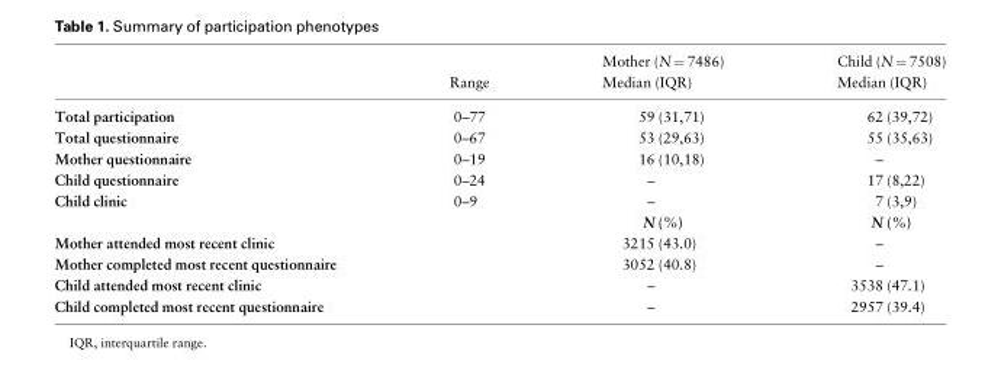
<table><thead><tr><td rowspan="2"></td><td rowspan="2">Range</td><td rowspan="2">Mother (N = 7486) Median (IQR)</td><td rowspan="2">Child (N = 7508) Median (IQR)</td></tr><tr></tr></thead><tbody><tr><td>Total participation</td><td>0–77</td><td>59 (31,71)</td><td>62 (39,72)</td></tr><tr><td>Total questionnaire</td><td>0–67</td><td>53 (29,63)</td><td>55 (35,63)</td></tr><tr><td>Mother questionnaire</td><td>0–19</td><td>16 (10,18)</td><td>–</td></tr><tr><td>Child questionnaire</td><td>0–24</td><td>–</td><td>17 (8,22)</td></tr><tr><td rowspan="2">Child clinic</td><td>0–9</td><td>–</td><td>7 (3,9)</td></tr><tr><td></td><td>N (%)</td><td>N (%)</td></tr><tr><td>Mother attended most recent clinic</td><td></td><td>3215 (43.0)</td><td>–</td></tr><tr><td>Mother completed most recent questionnaire</td><td></td><td>3052 (40.8)</td><td>–</td></tr><tr><td>Child attended most recent clinic</td><td></td><td>–</td><td>3538 (47.1)</td></tr><tr><td>Child completed most recent questionnaire</td><td></td><td>–</td><td>2957 (39.4)</td></tr></tbody></table>